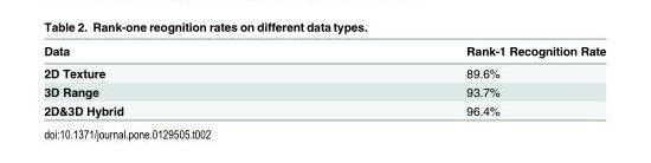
<table><thead><tr><td>Data</td><td>Rank-1 Recognition Rate</td></tr></thead><tbody><tr><td>2D Texture</td><td>89.6%</td></tr><tr><td>3D Range</td><td>93.7%</td></tr><tr><td>2D&amp;3D Hybrid</td><td>96.4%</td></tr></tbody></table>